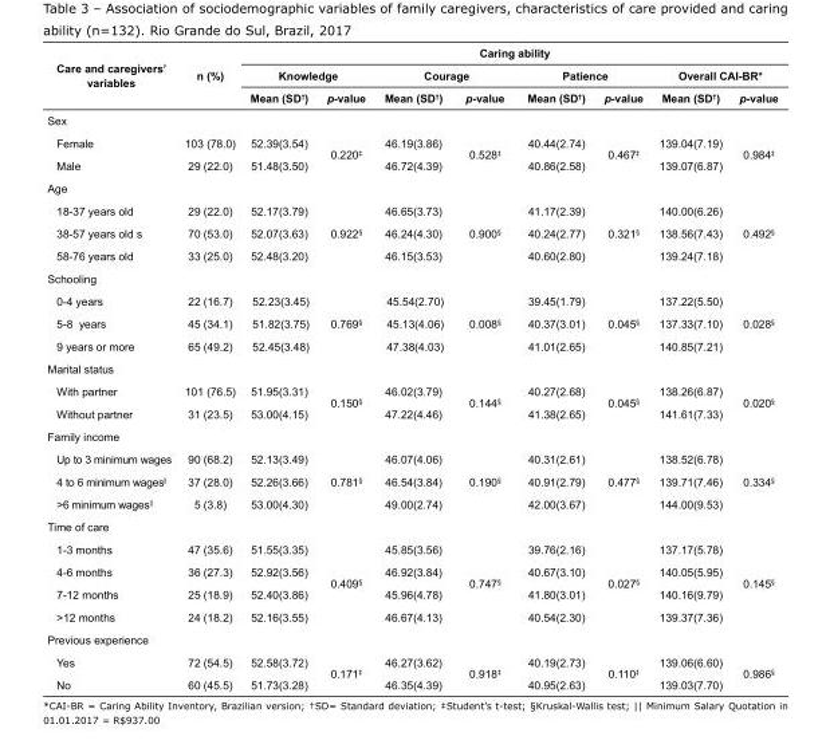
<table><tbody><tr><td rowspan="3">Care and caregivers’ variables</td><td rowspan="3">n (%)</td><td colspan="8">Caring ability</td></tr><tr><td colspan="2">Knowledge</td><td colspan="2">Courage</td><td colspan="2">Patience</td><td colspan="2">Overall CAI-BR*</td></tr><tr><td>Mean (SD<sup>†</sup>)</td><td>p-value</td><td>Mean (SD<sup>†</sup>)</td><td>p-value</td><td>Mean (SD<sup>†</sup>)</td><td>p-value</td><td>Mean (SD<sup>†</sup>)</td><td>p-value</td></tr><tr><td colspan="10">Sex</td></tr><tr><td>Female</td><td>103 (78.0)</td><td>52.39(3.54)</td><td rowspan="2">0.220<sup>‡</sup></td><td>46.19(3.86)</td><td rowspan="2">0.528<sup>‡</sup></td><td>40.44(2.74)</td><td rowspan="2">0.467<sup>‡</sup></td><td>139.04(7.19)</td><td rowspan="2">0.984<sup>‡</sup></td></tr><tr><td>Male</td><td>29 (22.0)</td><td>51.48(3.50)</td><td>46.72(4.39)</td><td>40.86(2.58)</td><td>139.07(6.87)</td></tr><tr><td colspan="10">Age</td></tr><tr><td>18-37 years old</td><td>29 (22.0)</td><td>52.17(3.79)</td><td rowspan="3">0.922<sup>§</sup></td><td>46.65(3.73)</td><td rowspan="3">0.900<sup>§</sup></td><td>41.17(2.39)</td><td rowspan="3">0.321<sup>§</sup></td><td>140.00(6.26)</td><td rowspan="3">0.492<sup>§</sup></td></tr><tr><td>38-57 years old s</td><td>70 (53.0)</td><td>52.07(3.63)</td><td>46.24(4.30)</td><td>40.24(2.77)</td><td>138.56(7.43)</td></tr><tr><td>58-76 years old</td><td>33 (25.0)</td><td>52.48(3.20)</td><td>46.15(3.53)</td><td>40.60(2.80)</td><td>139.24(7.18)</td></tr><tr><td colspan="10">Schooling</td></tr><tr><td>0-4 years</td><td>22 (16.7)</td><td>52.23(3.45)</td><td rowspan="3">0.769<sup>§</sup></td><td>45.54(2.70)</td><td rowspan="3">0.008<sup>§</sup></td><td>39.45(1.79)</td><td rowspan="3">0.045<sup>§</sup></td><td>137.22(5.50)</td><td rowspan="3">0.028<sup>§</sup></td></tr><tr><td>5-8 years</td><td>45 (34.1)</td><td>51.82(3.75)</td><td>45.13(4.06)</td><td>40.37(3.01)</td><td>137.33(7.10)</td></tr><tr><td>9 years or more</td><td>65 (49.2)</td><td>52.45(3.48)</td><td>47.38(4.03)</td><td>41.01(2.65)</td><td>140.85(7.21)</td></tr><tr><td colspan="10">Marital status</td></tr><tr><td>With partner</td><td>101 (76.5)</td><td>51.95(3.31)</td><td rowspan="2">0.150<sup>§</sup></td><td>46.02(3.79)</td><td rowspan="2">0.144<sup>§</sup></td><td>40.27(2.68)</td><td rowspan="2">0.045<sup>§</sup></td><td>138.26(6.87)</td><td rowspan="2">0.020<sup>§</sup></td></tr><tr><td>Without partner</td><td>31 (23.5)</td><td>53.00(4.15)</td><td>47.22(4.46)</td><td>41.38(2.65)</td><td>141.61(7.33)</td></tr><tr><td colspan="10">Family income</td></tr><tr><td>Up to 3 minimum wages</td><td>90 (68.2)</td><td>52.13(3.49)</td><td rowspan="3">0.781<sup>§</sup></td><td>46.07(4.06)</td><td rowspan="3">0.190<sup>§</sup></td><td>40.31(2.61)</td><td rowspan="3">0.477<sup>§</sup></td><td>138.52(6.78)</td><td rowspan="3">0.334<sup>§</sup></td></tr><tr><td>4 to 6 minimum wages<sup>||</sup></td><td>37 (28.0)</td><td>52.26(3.66)</td><td>46.54(3.84)</td><td>40.91(2.79)</td><td>139.71(7.46)</td></tr><tr><td>&gt;6 minimum wages<sup>||</sup></td><td>5 (3.8)</td><td>53.00(4.30)</td><td>49.00(2.74)</td><td>42.00(3.67)</td><td>144.00(9.53)</td></tr><tr><td colspan="10">Time of care</td></tr><tr><td>1-3 months</td><td>47 (35.6)</td><td>51.55(3.35)</td><td rowspan="4">0.409<sup>§</sup></td><td>45.85(3.56)</td><td rowspan="4">0.747<sup>§</sup></td><td>39.76(2.16)</td><td rowspan="4">0.027<sup>§</sup></td><td>137.17(5.78)</td><td rowspan="4">0.145<sup>§</sup></td></tr><tr><td>4-6 months</td><td>36 (27.3)</td><td>52.92(3.56)</td><td>46.92(3.84)</td><td>40.67(3.10)</td><td>140.05(5.95)</td></tr><tr><td>7-12 months</td><td>25 (18.9)</td><td>52.40(3.86)</td><td>45.96(4.78)</td><td>41.80(3.01)</td><td>140.16(9.79)</td></tr><tr><td>&gt;12 months</td><td>24 (18.2)</td><td>52.16(3.55)</td><td>46.67(4.13)</td><td>40.54(2.30)</td><td>139.37(7.36)</td></tr><tr><td colspan="10">Previous experience</td></tr><tr><td>Yes</td><td>72 (54.5)</td><td>52.58(3.72)</td><td rowspan="2">0.171<sup>‡</sup></td><td>46.27(3.62)</td><td rowspan="2">0.918<sup>‡</sup></td><td>40.19(2.73)</td><td rowspan="2">0.110<sup>‡</sup></td><td>139.06(6.60)</td><td rowspan="2">0.986<sup>§</sup></td></tr><tr><td>No</td><td>60 (45.5)</td><td>51.73(3.28)</td><td>46.35(4.39)</td><td>40.95(2.63)</td><td>139.03(7.70)</td></tr></tbody></table>